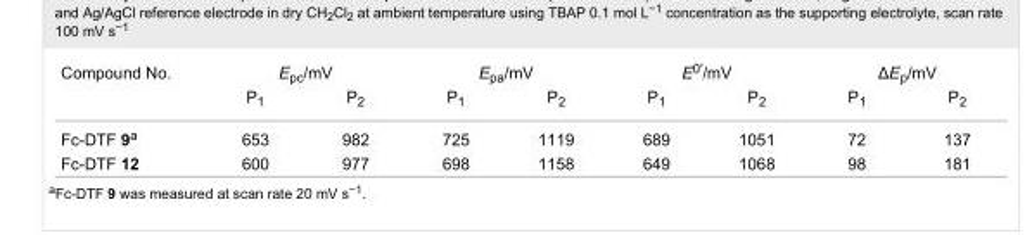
<table><tbody><tr><td rowspan="2">Compound No.</td><td colspan="2">E<sub>pc</sub>/mV</td><td colspan="2">E<sub>pa</sub>/mV</td><td colspan="2">E<sup>0′</sup>/mV</td><td colspan="2">ΔE<sub>p</sub>/mV</td></tr><tr><td>P<sub>1</sub></td><td>P<sub>2</sub></td><td>P<sub>1</sub></td><td>P<sub>2</sub></td><td>P<sub>1</sub></td><td>P<sub>2</sub></td><td>P<sub>1</sub></td><td>P<sub>2</sub></td></tr><tr><td>Fc-DTF 9<sup>a</sup></td><td>653</td><td>982</td><td>725</td><td>1119</td><td>689</td><td>1051</td><td>72</td><td>137</td></tr><tr><td>Fc-DTF 12</td><td>600</td><td>977</td><td>698</td><td>1158</td><td>649</td><td>1068</td><td>98</td><td>181</td></tr></tbody></table>